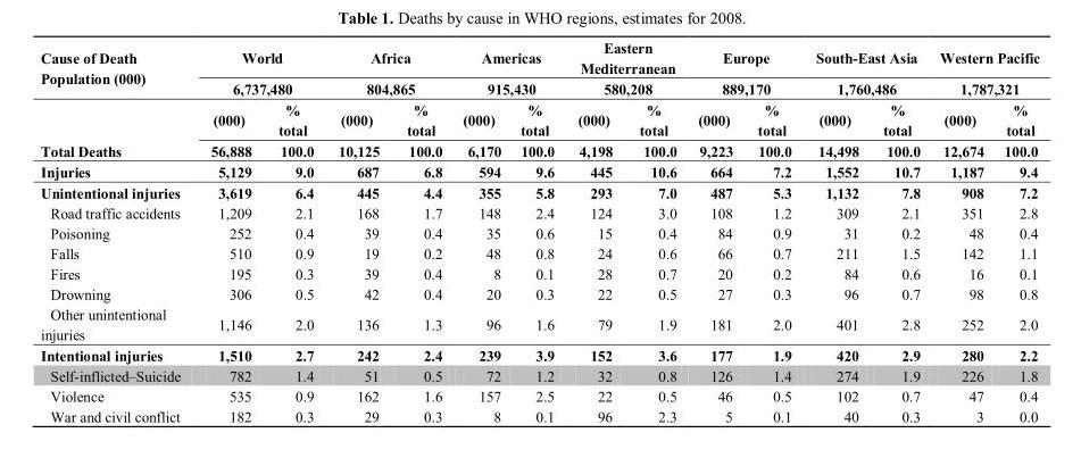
<table><thead><tr><td rowspan="3">Cause of Death Population (000)</td><td rowspan="2" colspan="2">World 6,737,480</td><td rowspan="2" colspan="2">Africa 804,865</td><td rowspan="2" colspan="2">Americas 915,430</td><td rowspan="2" colspan="2">Eastern Mediterranean 580,208</td><td rowspan="2" colspan="2">Europe 889,170</td><td rowspan="2" colspan="2">South-East Asia 1,760,486</td><td rowspan="2" colspan="2">Western Pacific 1,787,321</td></tr><tr></tr><tr><td>(000)</td><td>% total</td><td>(000)</td><td>% total</td><td>(000)</td><td>% total</td><td>(000)</td><td>% total</td><td>(000)</td><td>% total</td><td>(000)</td><td>% total</td><td>(000)</td><td>% total</td></tr></thead><tbody><tr><td>Total Deaths</td><td>56,888</td><td>100.0</td><td>10,125</td><td>100.0</td><td>6,170</td><td>100.0</td><td>4,198</td><td>100.0</td><td>9,223</td><td>100.0</td><td>14,498</td><td>100.0</td><td>12,674</td><td>100.0</td></tr><tr><td>Injuries</td><td>5,129</td><td>9.0</td><td>687</td><td>6.8</td><td>594</td><td>9.6</td><td>445</td><td>10.6</td><td>664</td><td>7.2</td><td>1,552</td><td>10.7</td><td>1,187</td><td>9.4</td></tr><tr><td>Unintentional injuries</td><td>3,619</td><td>6.4</td><td>445</td><td>4.4</td><td>355</td><td>5.8</td><td>293</td><td>7.0</td><td>487</td><td>5.3</td><td>1,132</td><td>7.8</td><td>908</td><td>7.2</td></tr><tr><td>Road traffic accidents</td><td>1,209</td><td>2.1</td><td>168</td><td>1.7</td><td>148</td><td>2.4</td><td>124</td><td>3.0</td><td>108</td><td>1.2</td><td>309</td><td>2.1</td><td>351</td><td>2.8</td></tr><tr><td>Poisoning</td><td>252</td><td>0.4</td><td>39</td><td>0.4</td><td>35</td><td>0.6</td><td>15</td><td>0.4</td><td>84</td><td>0.9</td><td>31</td><td>0.2</td><td>48</td><td>0.4</td></tr><tr><td>Falls</td><td>510</td><td>0.9</td><td>19</td><td>0.2</td><td>48</td><td>0.8</td><td>24</td><td>0.6</td><td>66</td><td>0.7</td><td>211</td><td>1.5</td><td>142</td><td>1.1</td></tr><tr><td>Fires</td><td>195</td><td>0.3</td><td>39</td><td>0.4</td><td>8</td><td>0.1</td><td>28</td><td>0.7</td><td>20</td><td>0.2</td><td>84</td><td>0.6</td><td>16</td><td>0.1</td></tr><tr><td>Drowning</td><td>306</td><td>0.5</td><td>42</td><td>0.4</td><td>20</td><td>0.3</td><td>22</td><td>0.5</td><td>27</td><td>0.3</td><td>96</td><td>0.7</td><td>98</td><td>0.8</td></tr><tr><td>Other unintentional injuries</td><td>1,146</td><td>2.0</td><td>136</td><td>1.3</td><td>96</td><td>1.6</td><td>79</td><td>1.9</td><td>181</td><td>2.0</td><td>401</td><td>2.8</td><td>252</td><td>2.0</td></tr><tr><td>Intentional injuries</td><td>1,510</td><td>2.7</td><td>242</td><td>2.4</td><td>239</td><td>3.9</td><td>152</td><td>3.6</td><td>177</td><td>1.9</td><td>420</td><td>2.9</td><td>280</td><td>2.2</td></tr><tr><td>Self-inflicted–Suicide</td><td>782</td><td>1.4</td><td>51</td><td>0.5</td><td>72</td><td>1.2</td><td>32</td><td>0.8</td><td>126</td><td>1.4</td><td>274</td><td>1.9</td><td>226</td><td>1.8</td></tr><tr><td>Violence</td><td>535</td><td>0.9</td><td>162</td><td>1.6</td><td>157</td><td>2.5</td><td>22</td><td>0.5</td><td>46</td><td>0.5</td><td>102</td><td>0.7</td><td>47</td><td>0.4</td></tr><tr><td>War and civil conflict</td><td>182</td><td>0.3</td><td>29</td><td>0.3</td><td>8</td><td>0.1</td><td>96</td><td>2.3</td><td>5</td><td>0.1</td><td>40</td><td>0.3</td><td>3</td><td>0.0</td></tr></tbody></table>